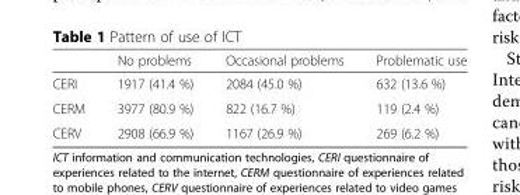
<table><thead><tr><td></td><td>No problems</td><td>Occasional problems</td><td>Problematic use</td></tr></thead><tbody><tr><td>CERI</td><td>1917 (41.4 %)</td><td>2084 (45.0 %)</td><td>632 (13.6 %)</td></tr><tr><td>CERM</td><td>3977 (80.9 %)</td><td>822 (16.7 %)</td><td>119 (2.4 %)</td></tr><tr><td>CERV</td><td>2908 (66.9 %)</td><td>1167 (26.9 %)</td><td>269 (6.2 %)</td></tr></tbody></table>